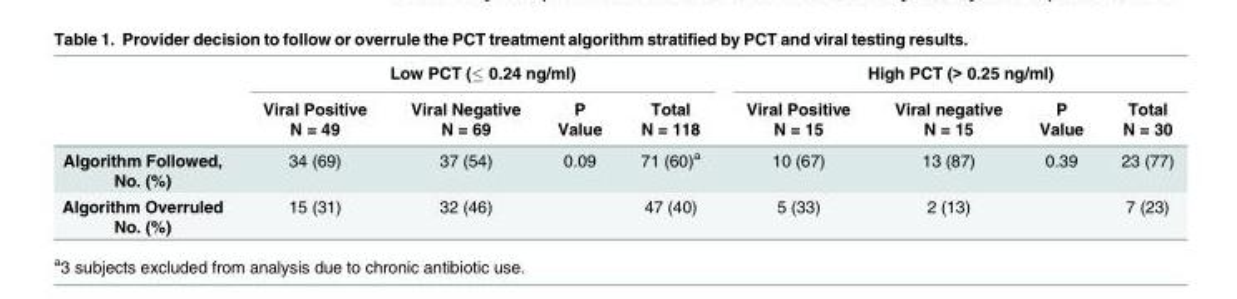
<table><thead><tr><td rowspan="2"></td><td colspan="4">Low PCT (≤ 0.24 ng/ml)</td><td colspan="4">High PCT (&gt; 0.25 ng/ml)</td></tr><tr><td>Viral Positive N = 49</td><td>Viral Negative N = 69</td><td>P Value</td><td>Total N = 118</td><td>Viral Positive N = 15</td><td>Viral negative N = 15</td><td>P Value</td><td>Total N = 30</td></tr></thead><tbody><tr><td>Algorithm Followed, No. (%)</td><td>34 (69)</td><td>37 (54)</td><td>0.09</td><td>71 (60)<sup>a</sup></td><td>10 (67)</td><td>13 (87)</td><td>0.39</td><td>23 (77)</td></tr><tr><td>Algorithm Overruled No. (%)</td><td>15 (31)</td><td>32 (46)</td><td></td><td>47 (40)</td><td>5 (33)</td><td>2 (13)</td><td></td><td>7 (23)</td></tr></tbody></table>